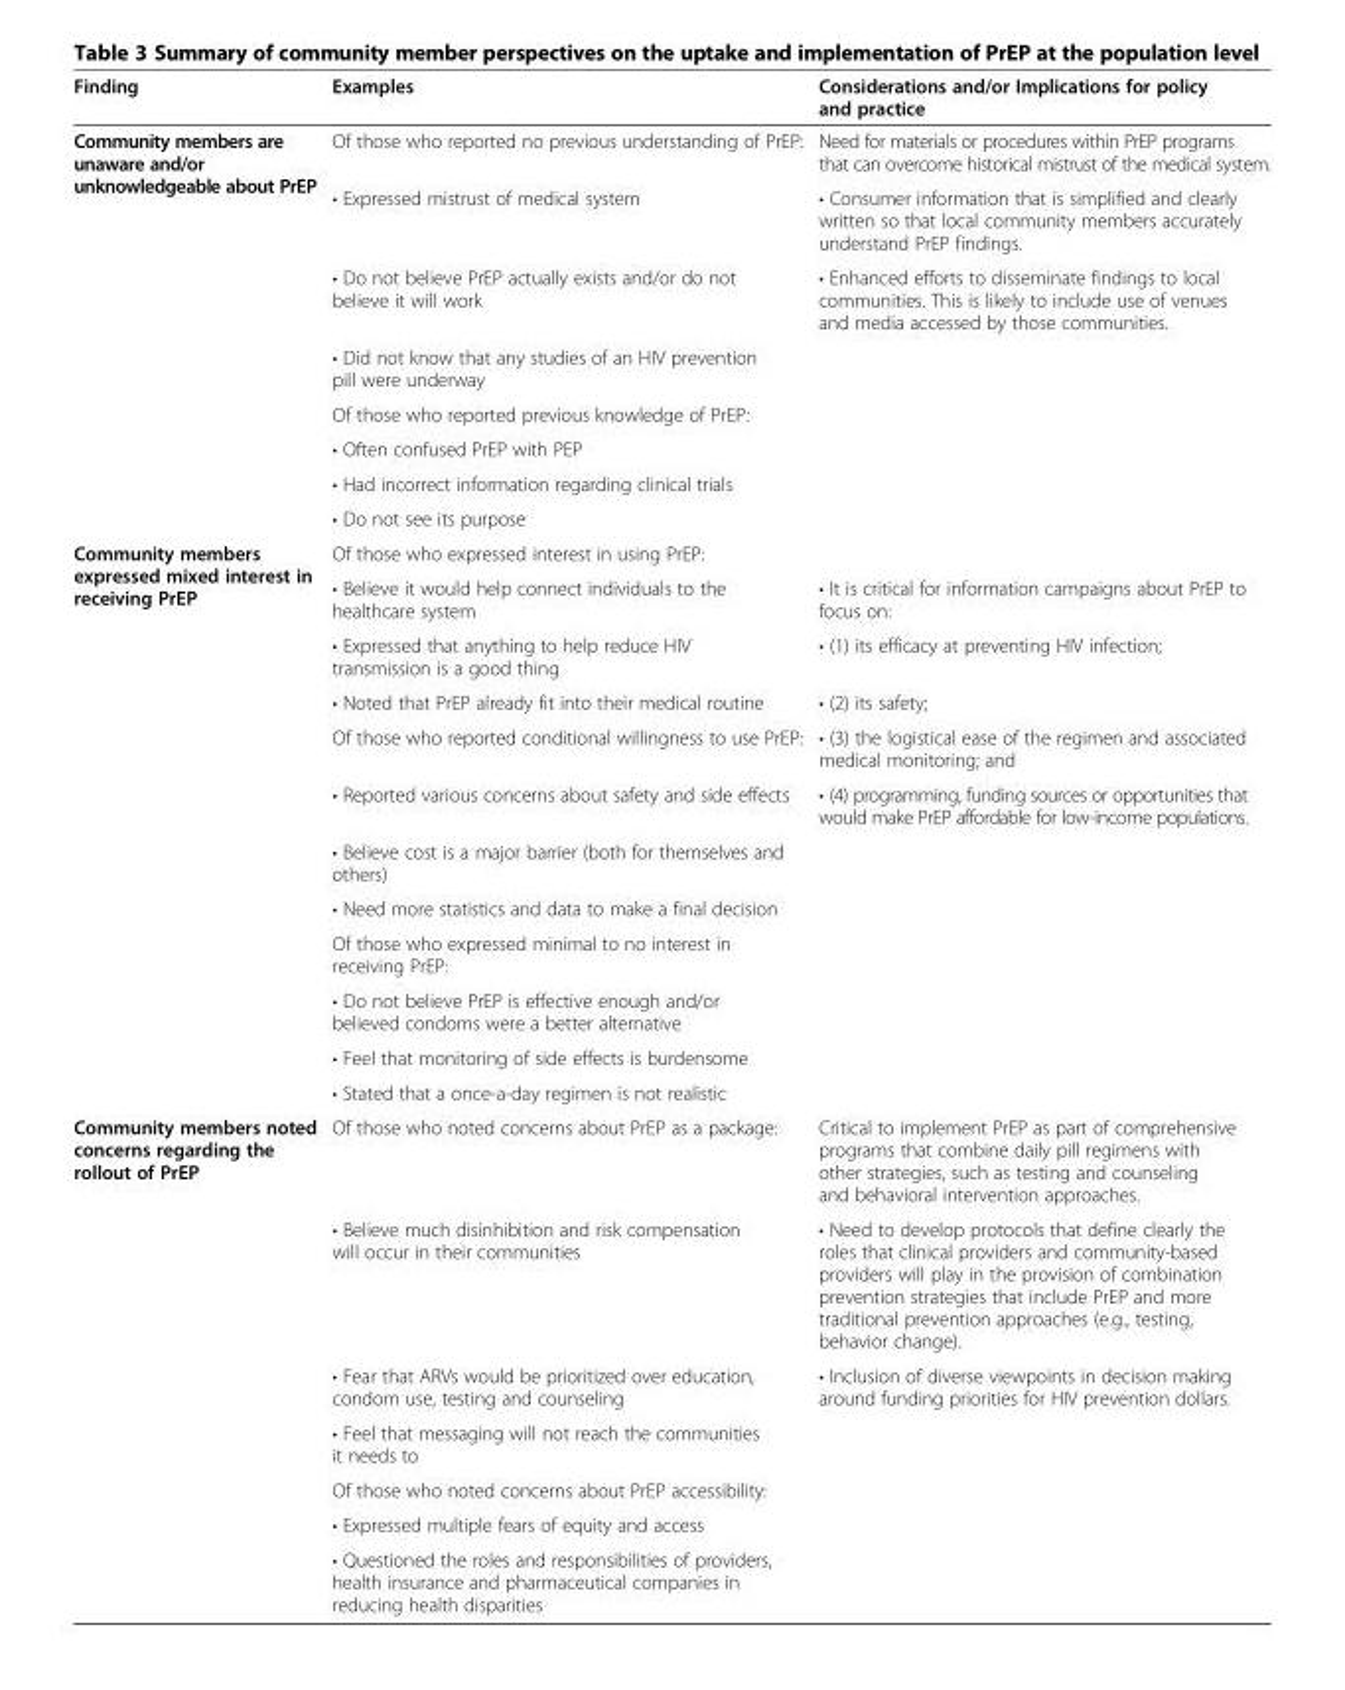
<table><thead><tr><td>Finding</td><td>Examples</td><td>Considerations and/or Implications for policy and practice</td></tr></thead><tbody><tr><td rowspan="8">Community members are unaware and/or unknowledgeable about PrEP</td><td>Of those who reported no previous understanding of PrEP:</td><td>Need for materials or procedures within PrEP programs that can overcome historical mistrust of the medical system.</td></tr><tr><td>• Expressed mistrust of medical system</td><td>• Consumer information that is simplified and clearly written so that local community members accurately understand PrEP findings.</td></tr><tr><td>• Do not believe PrEP actually exists and/or do not believe it will work</td><td>• Enhanced efforts to disseminate findings to local communities. This is likely to include use of venues and media accessed by those communities.</td></tr><tr><td>• Did not know that any studies of an HIV prevention pill were underway</td><td></td></tr><tr><td>Of those who reported previous knowledge of PrEP:</td><td></td></tr><tr><td>• Often confused PrEP with PEP</td><td></td></tr><tr><td>• Had incorrect information regarding clinical trials</td><td></td></tr><tr><td>• Do not see its purpose</td><td></td></tr><tr><td rowspan="12">Community members expressed mixed interest in receiving PrEP</td><td>Of those who expressed interest in using PrEP:</td><td></td></tr><tr><td>• Believe it would help connect individuals to the healthcare system</td><td>• It is critical for information campaigns about PrEP to focus on:</td></tr><tr><td>• Expressed that anything to help reduce HIV transmission is a good thing</td><td>• (1) its efficacy at preventing HIV infection;</td></tr><tr><td>• Noted that PrEP already fit into their medical routine</td><td>• (2) its safety;</td></tr><tr><td>Of those who reported conditional willingness to use PrEP:</td><td>• (3) the logistical ease of the regimen and associated medical monitoring; and</td></tr><tr><td>• Reported various concerns about safety and side effects</td><td>• (4) programming, funding sources or opportunities that would make PrEP affordable for low-income populations.</td></tr><tr><td>• Believe cost is a major barrier (both for themselves and others)</td><td></td></tr><tr><td>• Need more statistics and data to make a final decision</td><td></td></tr><tr><td>Of those who expressed minimal to no interest in receiving PrEP:</td><td></td></tr><tr><td>• Do not believe PrEP is effective enough and/or believed condoms were a better alternative</td><td></td></tr><tr><td>• Feel that monitoring of side effects is burdensome</td><td></td></tr><tr><td>• Stated that a once-a-day regimen is not realistic</td><td></td></tr><tr><td rowspan="7">Community members noted concerns regarding the rollout of PrEP</td><td>Of those who noted concerns about PrEP as a package:</td><td>Critical to implement PrEP as part of comprehensive programs that combine daily pill regimens with other strategies, such as testing and counseling and behavioral intervention approaches.</td></tr><tr><td>• Believe much disinhibition and risk compensation will occur in their communities</td><td>• Need to develop protocols that define clearly the roles that clinical providers and community-based providers will play in the provision of combination prevention strategies that include PrEP and more traditional prevention approaches (e.g., testing, behavior change).</td></tr><tr><td>• Fear that ARVs would be prioritized over education, condom use, testing and counseling</td><td>• Inclusion of diverse viewpoints in decision making around funding priorities for HIV prevention dollars.</td></tr><tr><td>• Feel that messaging will not reach the communities it needs to</td><td></td></tr><tr><td>Of those who noted concerns about PrEP accessibility:</td><td></td></tr><tr><td>• Expressed multiple fears of equity and access</td><td></td></tr><tr><td>• Questioned the roles and responsibilities of providers, health insurance and pharmaceutical companies in reducing health disparities</td><td></td></tr></tbody></table>